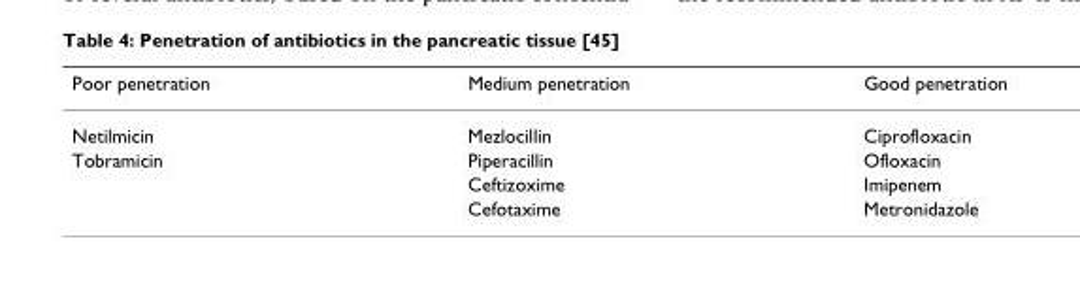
<table><thead><tr><td>Poor penetration</td><td>Medium penetration</td><td>Good penetration</td></tr></thead><tbody><tr><td>Netilmicin</td><td>Mezlocillin</td><td>Ciprofloxacin</td></tr><tr><td rowspan="3">Tobramicin</td><td>Piperacillin</td><td>Ofloxacin</td></tr><tr><td>Ceftizoxime</td><td>Imipenem</td></tr><tr><td>Cefotaxime</td><td>Metronidazole</td></tr></tbody></table>